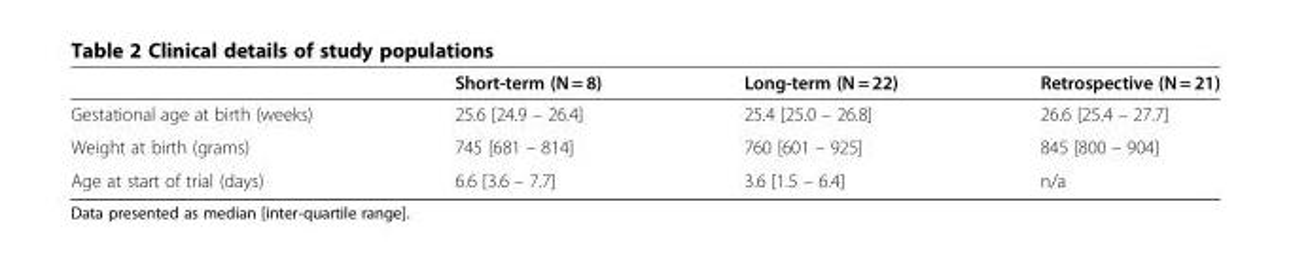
<table><thead><tr><td></td><td>Short-term (N = 8)</td><td>Long-term (N = 22)</td><td>Retrospective (N = 21)</td></tr></thead><tbody><tr><td>Gestational age at birth (weeks)</td><td>25.6 [24.9 – 26.4]</td><td>25.4 [25.0 – 26.8]</td><td>26.6 [25.4 – 27.7]</td></tr><tr><td>Weight at birth (grams)</td><td>745 [681 – 814]</td><td>760 [601 – 925]</td><td>845 [800 – 904]</td></tr><tr><td>Age at start of trial (days)</td><td>6.6 [3.6 – 7.7]</td><td>3.6 [1.5 – 6.4]</td><td>n/a</td></tr></tbody></table>